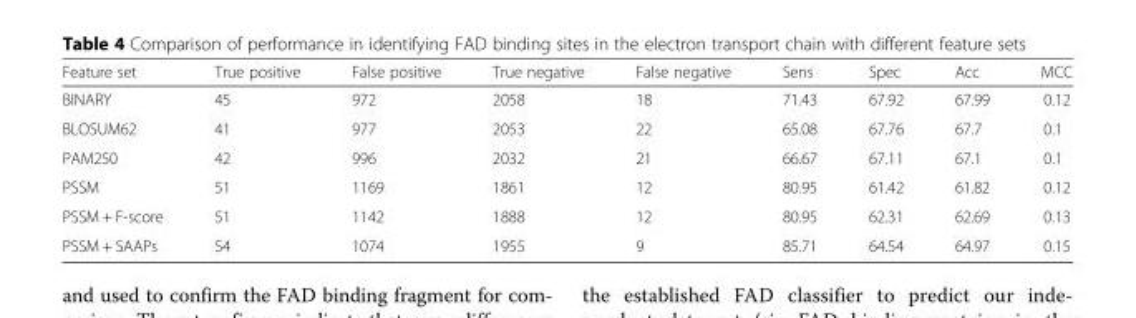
<table><thead><tr><td>Feature set</td><td>True positive</td><td>False positive</td><td>True negative</td><td>False negative</td><td>Sens</td><td>Spec</td><td>Acc</td><td>MCC</td></tr></thead><tbody><tr><td>BINARY</td><td>45</td><td>972</td><td>2058</td><td>18</td><td>71.43</td><td>67.92</td><td>67.99</td><td>0.12</td></tr><tr><td>BLOSUM62</td><td>41</td><td>977</td><td>2053</td><td>22</td><td>65.08</td><td>67.76</td><td>67.7</td><td>0.1</td></tr><tr><td>PAM250</td><td>42</td><td>996</td><td>2032</td><td>21</td><td>66.67</td><td>67.11</td><td>67.1</td><td>0.1</td></tr><tr><td>PSSM</td><td>51</td><td>1169</td><td>1861</td><td>12</td><td>80.95</td><td>61.42</td><td>61.82</td><td>0.12</td></tr><tr><td>PSSM + F-score</td><td>51</td><td>1142</td><td>1888</td><td>12</td><td>80.95</td><td>62.31</td><td>62.69</td><td>0.13</td></tr><tr><td>PSSM + SAAPs</td><td>54</td><td>1074</td><td>1955</td><td>9</td><td>85.71</td><td>64.54</td><td>64.97</td><td>0.15</td></tr></tbody></table>